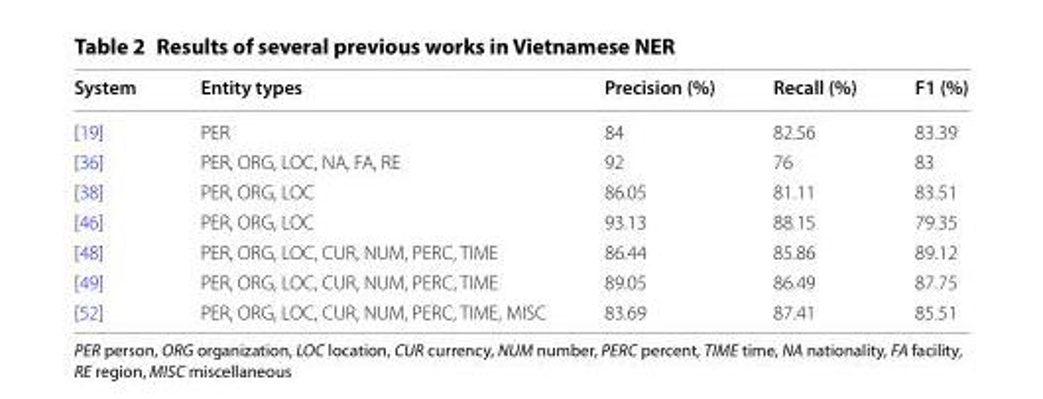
<table><thead><tr><td>System</td><td>Entity types</td><td>Precision (%)</td><td>Recall (%)</td><td>F1 (%)</td></tr></thead><tbody><tr><td>[19]</td><td>PER</td><td>84</td><td>82.56</td><td>83.39</td></tr><tr><td>[36]</td><td>PER, ORG, LOC, NA, FA, RE</td><td>92</td><td>76</td><td>83</td></tr><tr><td>[38]</td><td>PER, ORG, LOC</td><td>86.05</td><td>81.11</td><td>83.51</td></tr><tr><td>[46]</td><td>PER, ORG, LOC</td><td>93.13</td><td>88.15</td><td>79.35</td></tr><tr><td>[48]</td><td>PER, ORG, LOC, CUR, NUM, PERC, TIME</td><td>86.44</td><td>85.86</td><td>89.12</td></tr><tr><td>[49]</td><td>PER, ORG, LOC, CUR, NUM, PERC, TIME</td><td>89.05</td><td>86.49</td><td>87.75</td></tr><tr><td>[52]</td><td>PER, ORG, LOC, CUR, NUM, PERC, TIME, MISC</td><td>83.69</td><td>87.41</td><td>85.51</td></tr></tbody></table>